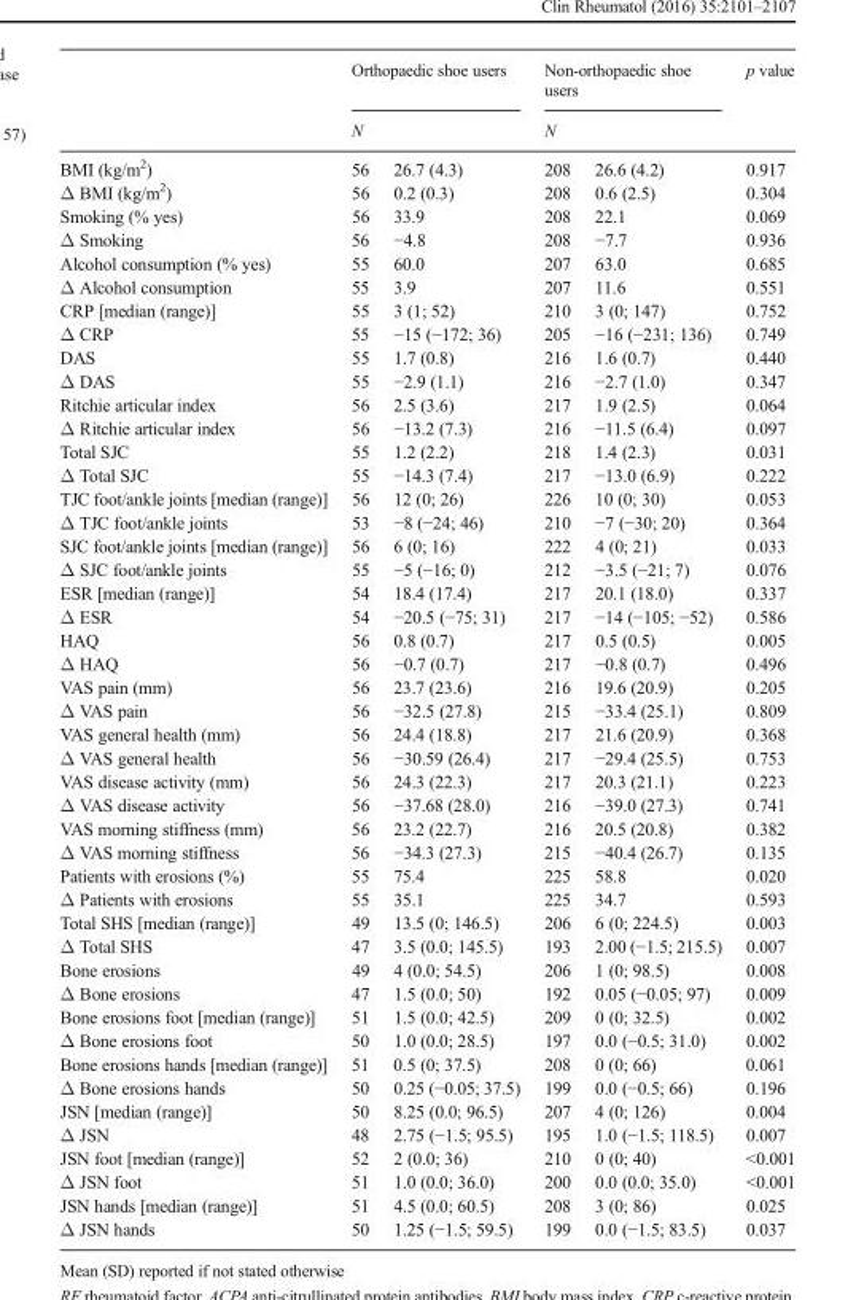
<table><thead><tr><td rowspan="2"></td><td colspan="2">Orthopaedic shoe users</td><td colspan="2">Non-orthopaedic shoe users</td><td rowspan="2">p value</td></tr><tr><td>N</td><td></td><td>N</td><td></td></tr></thead><tbody><tr><td>BMI (kg/m<sup>2</sup>)</td><td>56</td><td>26.7 (4.3)</td><td>208</td><td>26.6 (4.2)</td><td>0.917</td></tr><tr><td>Δ BMI (kg/m<sup>2</sup>)</td><td>56</td><td>0.2 (0.3)</td><td>208</td><td>0.6 (2.5)</td><td>0.304</td></tr><tr><td>Smoking (% yes)</td><td>56</td><td>33.9</td><td>208</td><td>22.1</td><td>0.069</td></tr><tr><td>Δ Smoking</td><td>56</td><td>−4.8</td><td>208</td><td>−7.7</td><td>0.936</td></tr><tr><td>Alcohol consumption (% yes)</td><td>55</td><td>60.0</td><td>207</td><td>63.0</td><td>0.685</td></tr><tr><td>Δ Alcohol consumption</td><td>55</td><td>3.9</td><td>207</td><td>11.6</td><td>0.551</td></tr><tr><td>CRP [median (range)]</td><td>55</td><td>3 (1; 52)</td><td>210</td><td>3 (0; 147)</td><td>0.752</td></tr><tr><td>Δ CRP</td><td>55</td><td>−15 (−172; 36)</td><td>205</td><td>−16 (−231; 136)</td><td>0.749</td></tr><tr><td>DAS</td><td>55</td><td>1.7 (0.8)</td><td>216</td><td>1.6 (0.7)</td><td>0.440</td></tr><tr><td>Δ DAS</td><td>55</td><td>−2.9 (1.1)</td><td>216</td><td>−2.7 (1.0)</td><td>0.347</td></tr><tr><td>Ritchie articular index</td><td>56</td><td>2.5 (3.6)</td><td>217</td><td>1.9 (2.5)</td><td>0.064</td></tr><tr><td>Δ Ritchie articular index</td><td>56</td><td>−13.2 (7.3)</td><td>216</td><td>−11.5 (6.4)</td><td>0.097</td></tr><tr><td>Total SJC</td><td>55</td><td>1.2 (2.2)</td><td>218</td><td>1.4 (2.3)</td><td>0.031</td></tr><tr><td>Δ Total SJC</td><td>55</td><td>−14.3 (7.4)</td><td>217</td><td>−13.0 (6.9)</td><td>0.222</td></tr><tr><td>TJC foot/ankle joints [median (range)]</td><td>56</td><td>12 (0; 26)</td><td>226</td><td>10 (0; 30)</td><td>0.053</td></tr><tr><td>Δ TJC foot/ankle joints</td><td>53</td><td>−8 (−24; 46)</td><td>210</td><td>−7 (−30; 20)</td><td>0.364</td></tr><tr><td>SJC foot/ankle joints [median (range)]</td><td>56</td><td>6 (0; 16)</td><td>222</td><td>4 (0; 21)</td><td>0.033</td></tr><tr><td>Δ SJC foot/ankle joints</td><td>55</td><td>−5 (−16; 0)</td><td>212</td><td>−3.5 (−21; 7)</td><td>0.076</td></tr><tr><td>ESR [median (range)]</td><td>54</td><td>18.4 (17.4)</td><td>217</td><td>20.1 (18.0)</td><td>0.337</td></tr><tr><td>Δ ESR</td><td>54</td><td>−20.5 (−75; 31)</td><td>217</td><td>−14 (−105; −52)</td><td>0.586</td></tr><tr><td>HAQ</td><td>56</td><td>0.8 (0.7)</td><td>217</td><td>0.5 (0.5)</td><td>0.005</td></tr><tr><td>Δ HAQ</td><td>56</td><td>−0.7 (0.7)</td><td>217</td><td>−0.8 (0.7)</td><td>0.496</td></tr><tr><td>VAS pain (mm)</td><td>56</td><td>23.7 (23.6)</td><td>216</td><td>19.6 (20.9)</td><td>0.205</td></tr><tr><td>Δ VAS pain</td><td>56</td><td>−32.5 (27.8)</td><td>215</td><td>−33.4 (25.1)</td><td>0.809</td></tr><tr><td>VAS general health (mm)</td><td>56</td><td>24.4 (18.8)</td><td>217</td><td>21.6 (20.9)</td><td>0.368</td></tr><tr><td>Δ VAS general health</td><td>56</td><td>−30.59 (26.4)</td><td>217</td><td>−29.4 (25.5)</td><td>0.753</td></tr><tr><td>VAS disease activity (mm)</td><td>56</td><td>24.3 (22.3)</td><td>217</td><td>20.3 (21.1)</td><td>0.223</td></tr><tr><td>Δ VAS disease activity</td><td>56</td><td>−37.68 (28.0)</td><td>216</td><td>−39.0 (27.3)</td><td>0.741</td></tr><tr><td>VAS morning stiffness (mm)</td><td>56</td><td>23.2 (22.7)</td><td>216</td><td>20.5 (20.8)</td><td>0.382</td></tr><tr><td>Δ VAS morning stiffness</td><td>56</td><td>−34.3 (27.3)</td><td>215</td><td>−40.4 (26.7)</td><td>0.135</td></tr><tr><td>Patients with erosions (%)</td><td>55</td><td>75.4</td><td>225</td><td>58.8</td><td>0.020</td></tr><tr><td>Δ Patients with erosions</td><td>55</td><td>35.1</td><td>225</td><td>34.7</td><td>0.593</td></tr><tr><td>Total SHS [median (range)]</td><td>49</td><td>13.5 (0; 146.5)</td><td>206</td><td>6 (0; 224.5)</td><td>0.003</td></tr><tr><td>Δ Total SHS</td><td>47</td><td>3.5 (0.0; 145.5)</td><td>193</td><td>2.00 (−1.5; 215.5)</td><td>0.007</td></tr><tr><td>Bone erosions</td><td>49</td><td>4 (0.0; 54.5)</td><td>206</td><td>1 (0; 98.5)</td><td>0.008</td></tr><tr><td>Δ Bone erosions</td><td>47</td><td>1.5 (0.0; 50)</td><td>192</td><td>0.05 (−0.05; 97)</td><td>0.009</td></tr><tr><td>Bone erosions foot [median (range)]</td><td>51</td><td>1.5 (0.0; 42.5)</td><td>209</td><td>0 (0; 32.5)</td><td>0.002</td></tr><tr><td>Δ Bone erosions foot</td><td>50</td><td>1.0 (0.0; 28.5)</td><td>197</td><td>0.0 (−0.5; 31.0)</td><td>0.002</td></tr><tr><td>Bone erosions hands [median (range)]</td><td>51</td><td>0.5 (0; 37.5)</td><td>208</td><td>0 (0; 66)</td><td>0.061</td></tr><tr><td>Δ Bone erosions hands</td><td>50</td><td>0.25 (−0.05; 37.5)</td><td>199</td><td>0.0 (−0.5; 66)</td><td>0.196</td></tr><tr><td>JSN [median (range)]</td><td>50</td><td>8.25 (0.0; 96.5)</td><td>207</td><td>4 (0; 126)</td><td>0.004</td></tr><tr><td>Δ JSN</td><td>48</td><td>2.75 (−1.5; 95.5)</td><td>195</td><td>1.0 (−1.5; 118.5)</td><td>0.007</td></tr><tr><td>JSN foot [median (range)]</td><td>52</td><td>2 (0.0; 36)</td><td>210</td><td>0 (0; 40)</td><td>&lt;0.001</td></tr><tr><td>Δ JSN foot</td><td>51</td><td>1.0 (0.0; 36.0)</td><td>200</td><td>0.0 (0.0; 35.0)</td><td>&lt;0.001</td></tr><tr><td>JSN hands [median (range)]</td><td>51</td><td>4.5 (0.0; 60.5)</td><td>208</td><td>3 (0; 86)</td><td>0.025</td></tr><tr><td>Δ JSN hands</td><td>50</td><td>1.25 (−1.5; 59.5)</td><td>199</td><td>0.0 (−1.5; 83.5)</td><td>0.037</td></tr></tbody></table>